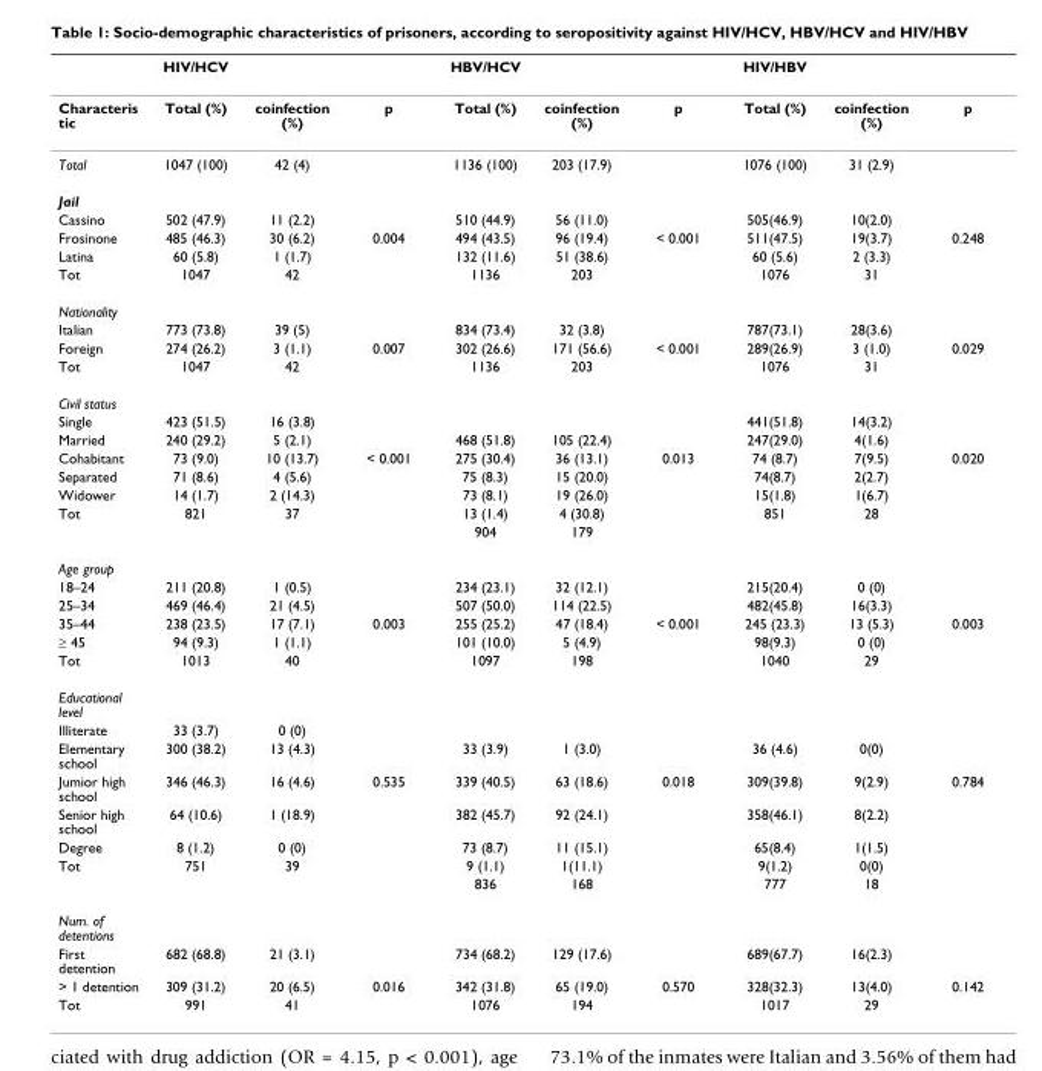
<table><thead><tr><td></td><td>HIV/HCV</td><td></td><td></td><td>HBV/HCV</td><td></td><td></td><td>HIV/HBV</td><td></td><td></td></tr></thead><tbody><tr><td>Characteris tic</td><td>Total (%)</td><td>coinfection (%)</td><td>p</td><td>Total (%)</td><td>coinfection (%)</td><td>p</td><td>Total (%)</td><td>coinfection (%)</td><td>p</td></tr><tr><td>Total</td><td>1047 (100)</td><td>42 (4)</td><td></td><td>1136 (100)</td><td>203 (17.9)</td><td></td><td>1076 (100)</td><td>31 (2.9)</td><td></td></tr><tr><td colspan="10">Jail</td></tr><tr><td>Cassino</td><td>502 (47.9)</td><td>11 (2.2)</td><td></td><td>510 (44.9)</td><td>56 (11.0)</td><td></td><td>505(46.9)</td><td>10(2.0)</td><td></td></tr><tr><td>Frosinone</td><td>485 (46.3)</td><td>30 (6.2)</td><td>0.004</td><td>494 (43.5)</td><td>96 (19.4)</td><td>&lt; 0.001</td><td>511(47.5)</td><td>19(3.7)</td><td>0.248</td></tr><tr><td>Latina</td><td>60 (5.8)</td><td>1 (1.7)</td><td></td><td>132 (11.6)</td><td>51 (38.6)</td><td></td><td>60 (5.6)</td><td>2 (3.3)</td><td></td></tr><tr><td>Tot</td><td>1047</td><td>42</td><td></td><td>1136</td><td>203</td><td></td><td>1076</td><td>31</td><td></td></tr><tr><td colspan="10">Nationality</td></tr><tr><td>Italian</td><td>773 (73.8)</td><td>39 (5)</td><td></td><td>834 (73.4)</td><td>32 (3.8)</td><td></td><td>787(73.1)</td><td>28(3.6)</td><td></td></tr><tr><td>Foreign</td><td>274 (26.2)</td><td>3 (1.1)</td><td>0.007</td><td>302 (26.6)</td><td>171 (56.6)</td><td>&lt; 0.001</td><td>289(26.9)</td><td>3 (1.0)</td><td>0.029</td></tr><tr><td>Tot</td><td>1047</td><td>42</td><td></td><td>1136</td><td>203</td><td></td><td>1076</td><td>31</td><td></td></tr><tr><td colspan="10">Civil status</td></tr><tr><td>Single</td><td>423 (51.5)</td><td>16 (3.8)</td><td></td><td></td><td></td><td></td><td>441(51.8)</td><td>14(3.2)</td><td></td></tr><tr><td>Married</td><td>240 (29.2)</td><td>5 (2.1)</td><td></td><td>468 (51.8)</td><td>105 (22.4)</td><td></td><td>247(29.0)</td><td>4(1.6)</td><td></td></tr><tr><td>Cohabitant</td><td>73 (9.0)</td><td>10 (13.7)</td><td>&lt; 0.001</td><td>275 (30.4)</td><td>36 (13.1)</td><td>0.013</td><td>74 (8.7)</td><td>7(9.5)</td><td>0.020</td></tr><tr><td>Separated</td><td>71 (8.6)</td><td>4 (5.6)</td><td></td><td>75 (8.3)</td><td>15 (20.0)</td><td></td><td>74(8.7)</td><td>2(2.7)</td><td></td></tr><tr><td>Widower</td><td>14 (1.7)</td><td>2 (14.3)</td><td></td><td>73 (8.1)</td><td>19 (26.0)</td><td></td><td>15(1.8)</td><td>1(6.7)</td><td></td></tr><tr><td rowspan="2">Tot</td><td>821</td><td>37</td><td></td><td>13 (1.4)</td><td>4 (30.8)</td><td></td><td>851</td><td>28</td><td></td></tr><tr><td></td><td></td><td></td><td>904</td><td>179</td><td></td><td></td><td></td><td></td></tr><tr><td colspan="10">Age group</td></tr><tr><td>18–24</td><td>211 (20.8)</td><td>1 (0.5)</td><td></td><td>234 (23.1)</td><td>32 (12.1)</td><td></td><td>215(20.4)</td><td>0 (0)</td><td></td></tr><tr><td>25–34</td><td>469 (46.4)</td><td>21 (4.5)</td><td></td><td>507 (50.0)</td><td>114 (22.5)</td><td></td><td>482(45.8)</td><td>16(3.3)</td><td></td></tr><tr><td>35–44</td><td>238 (23.5)</td><td>17 (7.1)</td><td>0.003</td><td>255 (25.2)</td><td>47 (18.4)</td><td>&lt; 0.001</td><td>245 (23.3)</td><td>13 (5.3)</td><td>0.003</td></tr><tr><td>≥ 45</td><td>94 (9.3)</td><td>1 (1.1)</td><td></td><td>101 (10.0)</td><td>5 (4.9)</td><td></td><td>98(9.3)</td><td>0 (0)</td><td></td></tr><tr><td>Tot</td><td>1013</td><td>40</td><td></td><td>1097</td><td>198</td><td></td><td>1040</td><td>29</td><td></td></tr><tr><td colspan="10">Educational level</td></tr><tr><td>Illiterate</td><td>33 (3.7)</td><td>0 (0)</td><td></td><td></td><td></td><td></td><td></td><td></td><td></td></tr><tr><td>Elementary school</td><td>300 (38.2)</td><td>13 (4.3)</td><td></td><td>33 (3.9)</td><td>1 (3.0)</td><td></td><td>36 (4.6)</td><td>0(0)</td><td></td></tr><tr><td>Jumior high school</td><td>346 (46.3)</td><td>16 (4.6)</td><td>0.535</td><td>339 (40.5)</td><td>63 (18.6)</td><td>0.018</td><td>309(39.8)</td><td>9(2.9)</td><td>0.784</td></tr><tr><td>Senior high school</td><td>64 (10.6)</td><td>1 (18.9)</td><td></td><td>382 (45.7)</td><td>92 (24.1)</td><td></td><td>358(46.1)</td><td>8(2.2)</td><td></td></tr><tr><td>Degree</td><td>8 (1.2)</td><td>0 (0)</td><td></td><td>73 (8.7)</td><td>11 (15.1)</td><td></td><td>65(8.4)</td><td>1(1.5)</td><td></td></tr><tr><td rowspan="2">Tot</td><td>751</td><td>39</td><td></td><td>9 (1.1)</td><td>1(11.1)</td><td></td><td>9(1.2)</td><td>0(0)</td><td></td></tr><tr><td></td><td></td><td></td><td>836</td><td>168</td><td></td><td>777</td><td>18</td><td></td></tr><tr><td colspan="10">Num. of detentions</td></tr><tr><td>First detention</td><td>682 (68.8)</td><td>21 (3.1)</td><td></td><td>734 (68.2)</td><td>129 (17.6)</td><td></td><td>689(67.7)</td><td>16(2.3)</td><td></td></tr><tr><td>&gt; 1 detention</td><td>309 (31.2)</td><td>20 (6.5)</td><td>0.016</td><td>342 (31.8)</td><td>65 (19.0)</td><td>0.570</td><td>328(32.3)</td><td>13(4.0)</td><td>0.142</td></tr><tr><td>Tot</td><td>991</td><td>41</td><td></td><td>1076</td><td>194</td><td></td><td>1017</td><td>29</td><td></td></tr></tbody></table>